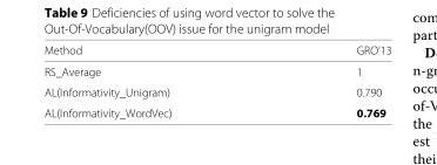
<table><thead><tr><td>Method</td><td>GRO’13</td></tr></thead><tbody><tr><td>RS_Average</td><td>1</td></tr><tr><td>AL(Informativity_Unigram)</td><td>0.790</td></tr><tr><td>AL(Informativity_WordVec)</td><td>0.769</td></tr></tbody></table>